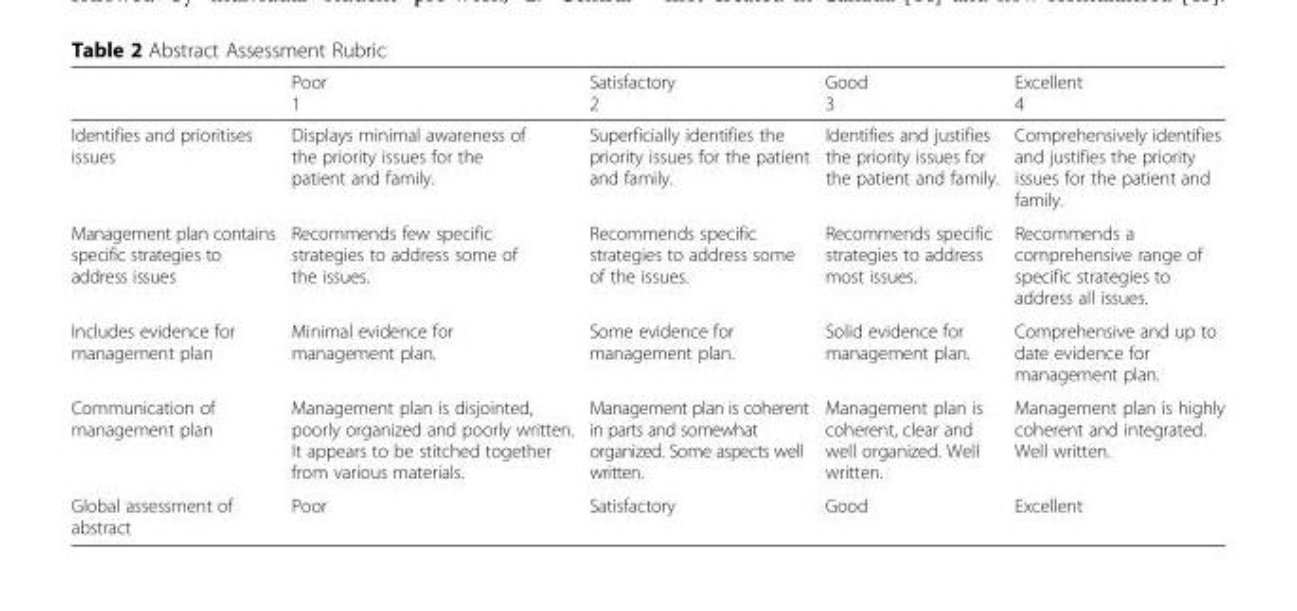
<table><thead><tr><td></td><td>Poor 1</td><td>Satisfactory 2</td><td>Good 3</td><td>Excellent 4</td></tr></thead><tbody><tr><td>Identifies and prioritises issues</td><td>Displays minimal awareness of the priority issues for the patient and family.</td><td>Superficially identifies the priority issues for the patient and family.</td><td>Identifies and justifies the priority issues for the patient and family.</td><td>Comprehensively identifies and justifies the priority issues for the patient and family.</td></tr><tr><td>Management plan contains specific strategies to address issues</td><td>Recommends few specific strategies to address some of the issues.</td><td>Recommends specific strategies to address some of the issues.</td><td>Recommends specific strategies to address most issues.</td><td>Recommends a comprehensive range of specific strategies to address all issues.</td></tr><tr><td>Includes evidence for management plan</td><td>Minimal evidence for management plan.</td><td>Some evidence for management plan.</td><td>Solid evidence for management plan.</td><td>Comprehensive and up to date evidence for management plan.</td></tr><tr><td>Communication of management plan</td><td>Management plan is disjointed, poorly organized and poorly written. It appears to be stitched together from various materials.</td><td>Management plan is coherent in parts and somewhat organized. Some aspects well written.</td><td>Management plan is coherent, clear and well organized. Well written.</td><td>Management plan is highly coherent and integrated. Well written.</td></tr><tr><td>Global assessment of abstract</td><td>Poor</td><td>Satisfactory</td><td>Good</td><td>Excellent</td></tr></tbody></table>